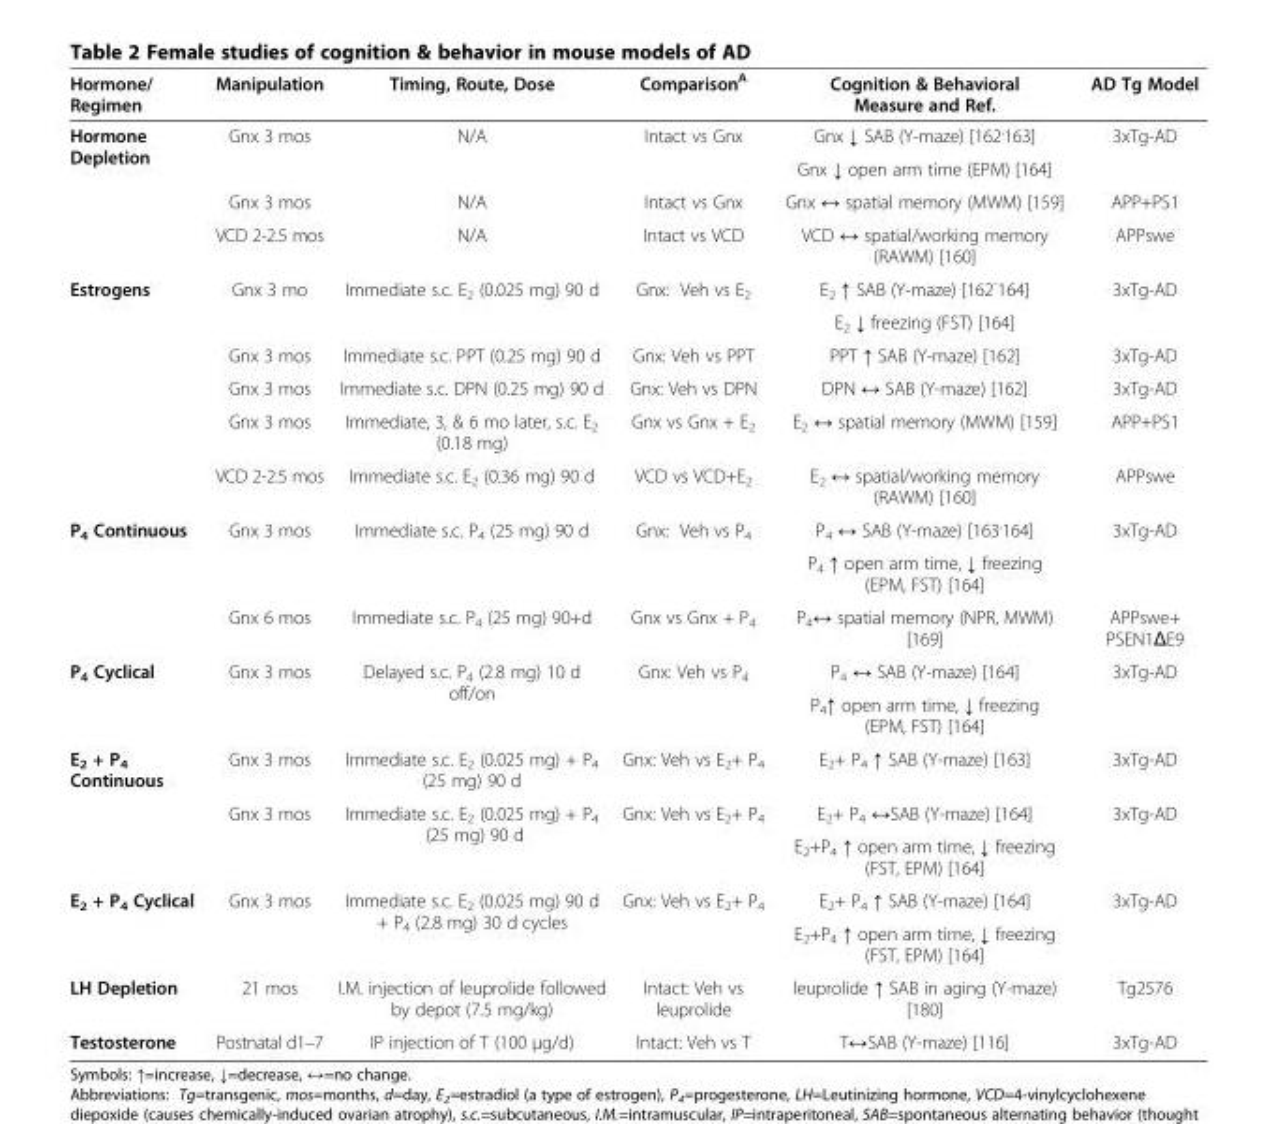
<table><thead><tr><td>Hormone/ Regimen</td><td>Manipulation</td><td>Timing, Route, Dose</td><td>Comparison<sup>A</sup></td><td>Cognition &amp; Behavioral Measure and Ref.</td><td>AD Tg Model</td></tr></thead><tbody><tr><td rowspan="4">Hormone Depletion</td><td rowspan="2">Gnx 3 mos</td><td rowspan="2">N/A</td><td rowspan="2">Intact vs Gnx</td><td>Gnx ↓ SAB (Y-maze) [162,163]</td><td rowspan="2">3xTg-AD</td></tr><tr><td>Gnx ↓ open arm time (EPM) [164]</td></tr><tr><td>Gnx 3 mos</td><td>N/A</td><td>Intact vs Gnx</td><td>Gnx ↔ spatial memory (MWM) [159]</td><td>APP+PS1</td></tr><tr><td>VCD 2-2.5 mos</td><td>N/A</td><td>Intact vs VCD</td><td>VCD ↔ spatial/working memory (RAWM) [160]</td><td>APPswe</td></tr><tr><td rowspan="6">Estrogens</td><td rowspan="2">Gnx 3 mo</td><td rowspan="2">Immediate s.c. E<sub>2</sub> (0.025 mg) 90 d</td><td rowspan="2">Gnx: Veh vs E<sub>2</sub></td><td>E2 ↑ SAB (Y-maze) [162-164]</td><td rowspan="2">3xTg-AD</td></tr><tr><td>E<sub>2</sub> ↓ freezing (FST) [164]</td></tr><tr><td>Gnx 3 mos</td><td>Immediate s.c. PPT (0.25 mg) 90 d</td><td>Gnx: Veh vs PPT</td><td>PPT ↑ SAB (Y-maze) [162]</td><td>3xTg-AD</td></tr><tr><td>Gnx 3 mos</td><td>Immediate s.c. DPN (0.25 mg) 90 d</td><td>Gnx: Veh vs DPN</td><td>DPN ↔ SAB (Y-maze) [162]</td><td>3xTg-AD</td></tr><tr><td>Gnx 3 mos</td><td>Immediate, 3, &amp; 6 mo later, s.c. E<sub>2</sub> (0.18 mg)</td><td>Gnx vs Gnx + E<sub>2</sub></td><td>E<sub>2</sub> ↔ spatial memory (MWM) [159]</td><td>APP+PS1</td></tr><tr><td>VCD 2-2.5 mos</td><td>Immediate s.c. E<sub>2</sub> (0.36 mg) 90 d</td><td>VCD vs VCD+E<sub>2</sub></td><td>E<sub>2</sub> ↔ spatial/working memory (RAWM) [160]</td><td>APPswe</td></tr><tr><td rowspan="3">P<sub>4</sub> Continuous</td><td rowspan="2">Gnx 3 mos</td><td rowspan="2">Immediate s.c. P<sub>4</sub> (25 mg) 90 d</td><td rowspan="2">Gnx: Veh vs P<sub>4</sub></td><td>P<sub>4</sub> ↔ SAB (Y-maze) [163,164]</td><td rowspan="2">3xTg-AD</td></tr><tr><td>P<sub>4</sub> ↑ open arm time, ↓ freezing (EPM, FST) [164]</td></tr><tr><td>Gnx 6 mos</td><td>Immediate s.c. P<sub>4</sub> (25 mg) 90+d</td><td>Gnx vs Gnx + P<sub>4</sub></td><td>P<sub>4</sub>↔ spatial memory (NPR, MWM) [169]</td><td>APPswe+ PSEN1ΔE9</td></tr><tr><td rowspan="2">P<sub>4</sub> Cyclical</td><td rowspan="2">Gnx 3 mos</td><td rowspan="2">Delayed s.c. P<sub>4</sub> (2.8 mg) 10 d off/on</td><td rowspan="2">Gnx: Veh vs P<sub>4</sub></td><td>P<sub>4</sub> ↔ SAB (Y-maze) [164]</td><td rowspan="2">3xTg-AD</td></tr><tr><td>P<sub>4</sub>↑ open arm time, ↓ freezing (EPM, FST) [164]</td></tr><tr><td rowspan="3">E<sub>2</sub> + P<sub>4</sub> Continuous</td><td>Gnx 3 mos</td><td>Immediate s.c. E<sub>2</sub> (0.025 mg) + P<sub>4</sub> (25 mg) 90 d</td><td>Gnx: Veh vs E<sub>2</sub>+ P<sub>4</sub></td><td>E<sub>2</sub>+ P<sub>4</sub> ↑ SAB (Y-maze) [163]</td><td>3xTg-AD</td></tr><tr><td rowspan="2">Gnx 3 mos</td><td rowspan="2">Immediate s.c. E<sub>2</sub> (0.025 mg) + P<sub>4</sub> (25 mg) 90 d</td><td rowspan="2">Gnx: Veh vs E<sub>2</sub>+ P<sub>4</sub></td><td>E<sub>2</sub>+ P<sub>4</sub> ↔SAB (Y-maze) [164]</td><td rowspan="2">3xTg-AD</td></tr><tr><td>E<sub>2</sub>+P<sub>4</sub> ↑ open arm time, ↓ freezing (FST, EPM) [164]</td></tr><tr><td rowspan="2">E<sub>2</sub> + P<sub>4</sub> Cyclical</td><td rowspan="2">Gnx 3 mos</td><td rowspan="2">Immediate s.c. E<sub>2</sub> (0.025 mg) 90 d + P<sub>4</sub> (2.8 mg) 30 d cycles</td><td rowspan="2">Gnx: Veh vs E<sub>2</sub>+ P<sub>4</sub></td><td>E<sub>2</sub>+ P<sub>4</sub> ↑ SAB (Y-maze) [164]</td><td rowspan="2">3xTg-AD</td></tr><tr><td>E<sub>2</sub>+P<sub>4</sub> ↑ open arm time, ↓ freezing (FST, EPM) [164]</td></tr><tr><td>LH Depletion</td><td>21 mos</td><td>I.M. injection of leuprolide followed by depot (7.5 mg/kg)</td><td>Intact: Veh vs leuprolide</td><td>leuprolide ↑ SAB in aging (Y-maze) [180]</td><td>Tg2576</td></tr><tr><td>Testosterone</td><td>Postnatal d1–7</td><td>IP injection of T (100 μg/d)</td><td>Intact: Veh vs T</td><td>T↔SAB (Y-maze) [116]</td><td>3xTg-AD</td></tr></tbody></table>